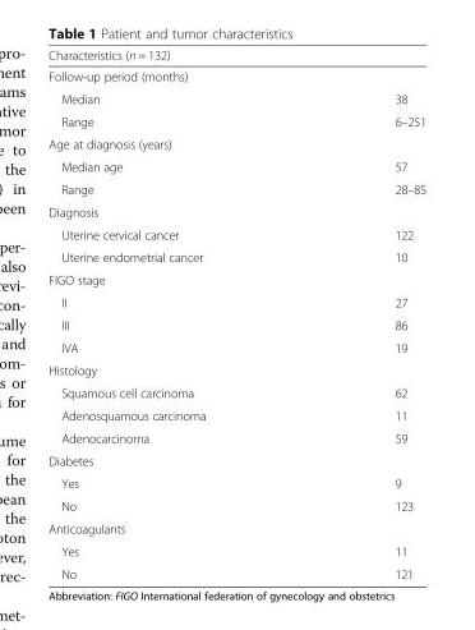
<table><thead><tr><td rowspan="2" colspan="2">Characteristics (n = 132) Follow-up period (months)</td></tr><tr></tr><tr><td>Median</td><td>38</td></tr></thead><tbody><tr><td>Range</td><td>6–251</td></tr><tr><td colspan="2">Age at diagnosis (years)</td></tr><tr><td>Median age</td><td>57</td></tr><tr><td>Range</td><td>28–85</td></tr><tr><td colspan="2">Diagnosis</td></tr><tr><td>Uterine cervical cancer</td><td>122</td></tr><tr><td>Uterine endometrial cancer</td><td>10</td></tr><tr><td colspan="2">FIGO stage</td></tr><tr><td>II</td><td>27</td></tr><tr><td>III</td><td>86</td></tr><tr><td>IVA</td><td>19</td></tr><tr><td colspan="2">Histology</td></tr><tr><td>Squamous cell carcinoma</td><td>62</td></tr><tr><td>Adenosquamous carcinoma</td><td>11</td></tr><tr><td>Adenocarcinoma</td><td>59</td></tr><tr><td colspan="2">Diabetes</td></tr><tr><td>Yes</td><td>9</td></tr><tr><td>No</td><td>123</td></tr><tr><td colspan="2">Anticoagulants</td></tr><tr><td>Yes</td><td>11</td></tr><tr><td>No</td><td>121</td></tr></tbody></table>